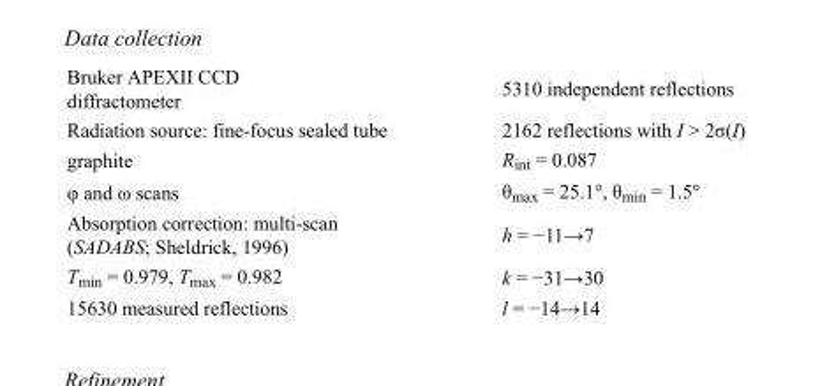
<table><tbody><tr><td>Bruker APEXII CCD diffractometer</td><td>5310 independent reflections</td></tr><tr><td>Radiation source: fine-focus sealed tube</td><td>2162 reflections with I &gt; 2σ(I)</td></tr><tr><td>graphite</td><td>R<sub>int</sub> = 0.087</td></tr><tr><td>φ and ω scans</td><td>θ<sub>max</sub> = 25.1°, θ<sub>min</sub> = 1.5°</td></tr><tr><td>Absorption correction: multi-scan (SADABS; Sheldrick, 1996)</td><td>h = −11→7</td></tr><tr><td>T<sub>min</sub> = 0.979, T<sub>max</sub> = 0.982</td><td>k = −31→30</td></tr><tr><td>15630 measured reflections</td><td>l = −14→14</td></tr></tbody></table>